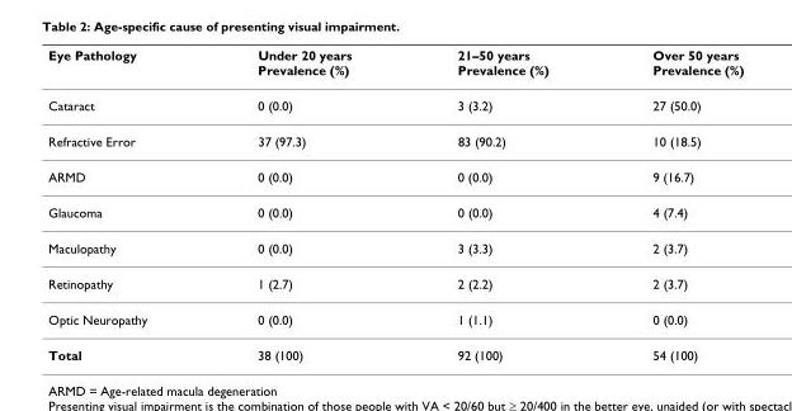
<table><thead><tr><td>Eye Pathology</td><td>Under 20 years Prevalence (%)</td><td>21–50 years Prevalence (%)</td><td>Over 50 years Prevalence (%)</td></tr></thead><tbody><tr><td>Cataract</td><td>0 (0.0)</td><td>3 (3.2)</td><td>27 (50.0)</td></tr><tr><td>Refractive Error</td><td>37 (97.3)</td><td>83 (90.2)</td><td>10 (18.5)</td></tr><tr><td>ARMD</td><td>0 (0.0)</td><td>0 (0.0)</td><td>9 (16.7)</td></tr><tr><td>Glaucoma</td><td>0 (0.0)</td><td>0 (0.0)</td><td>4 (7.4)</td></tr><tr><td>Maculopathy</td><td>0 (0.0)</td><td>3 (3.3)</td><td>2 (3.7)</td></tr><tr><td>Retinopathy</td><td>1 (2.7)</td><td>2 (2.2)</td><td>2 (3.7)</td></tr><tr><td>Optic Neuropathy</td><td>0 (0.0)</td><td>1 (1.1)</td><td>0 (0.0)</td></tr><tr><td>Total</td><td>38 (100)</td><td>92 (100)</td><td>54 (100)</td></tr></tbody></table>